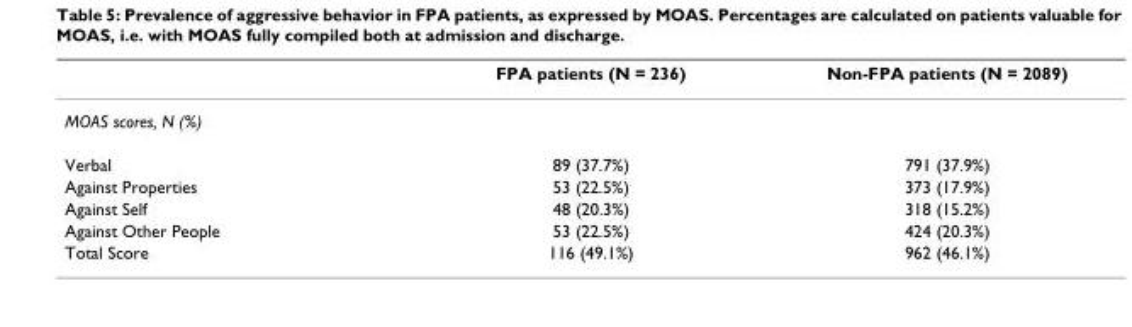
<table><thead><tr><td></td><td>FPA patients (N = 236)</td><td>Non-FPA patients (N = 2089)</td></tr></thead><tbody><tr><td colspan="3">MOAS scores, N (%)</td></tr><tr><td>Verbal</td><td>89 (37.7%)</td><td>791 (37.9%)</td></tr><tr><td>Against Properties</td><td>53 (22.5%)</td><td>373 (17.9%)</td></tr><tr><td>Against Self</td><td>48 (20.3%)</td><td>318 (15.2%)</td></tr><tr><td>Against Other People</td><td>53 (22.5%)</td><td>424 (20.3%)</td></tr><tr><td>Total Score</td><td>116 (49.1%)</td><td>962 (46.1%)</td></tr></tbody></table>